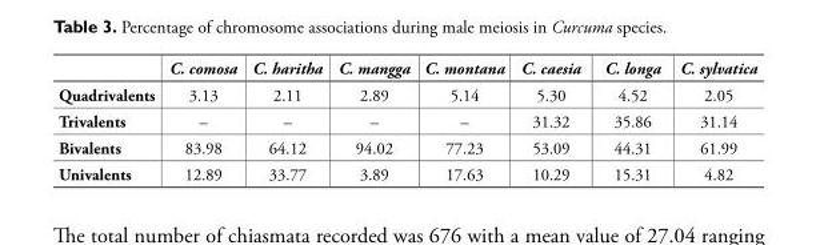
<table><thead><tr><td></td><td>C. comosa</td><td>C. haritha</td><td>C. mangga</td><td>C. montana</td><td>C. caesia</td><td>C. longa</td><td>C. sylvatica</td></tr></thead><tbody><tr><td>Quadrivalents</td><td>3.13</td><td>2.11</td><td>2.89</td><td>5.14</td><td>5.30</td><td>4.52</td><td>2.05</td></tr><tr><td>Trivalents</td><td>–</td><td>–</td><td>–</td><td>–</td><td>31.32</td><td>35.86</td><td>31.14</td></tr><tr><td>Bivalents</td><td>83.98</td><td>64.12</td><td>94.02</td><td>77.23</td><td>53.09</td><td>44.31</td><td>61.99</td></tr><tr><td>Univalents</td><td>12.89</td><td>33.77</td><td>3.89</td><td>17.63</td><td>10.29</td><td>15.31</td><td>4.82</td></tr></tbody></table>